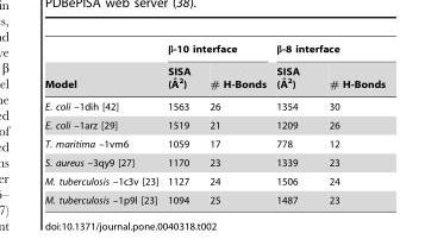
<table><thead><tr><td rowspan="2">Model</td><td colspan="2">β-10 interface</td><td colspan="2">β-8 interface</td></tr><tr><td>SISA (A˚ 2)</td><td># H-Bonds</td><td>SISA (A˚ 2)</td><td># H-Bonds</td></tr></thead><tbody><tr><td>E. coli –1dih [42]</td><td>1563</td><td>26</td><td>1354</td><td>30</td></tr><tr><td>E. coli –1arz [29]</td><td>1519</td><td>21</td><td>1209</td><td>26</td></tr><tr><td>T. maritima –1vm6</td><td>1059</td><td>17</td><td>778</td><td>12</td></tr><tr><td>S. aureus –3qy9 [27]</td><td>1170</td><td>23</td><td>1339</td><td>23</td></tr><tr><td>M. tuberculosis –1c3v [23]</td><td>1127</td><td>24</td><td>1506</td><td>24</td></tr><tr><td>M. tuberculosis –1p9l [23]</td><td>1094</td><td>25</td><td>1487</td><td>23</td></tr></tbody></table>